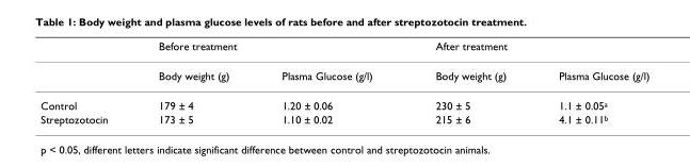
<table><thead><tr><td rowspan="2"></td><td colspan="2">Before treatment</td><td colspan="2">After treatment</td></tr><tr><td>Body weight (g)</td><td>Plasma Glucose (g/l)</td><td>Body weight (g)</td><td>Plasma Glucose (g/l)</td></tr></thead><tbody><tr><td>Control</td><td>179 ± 4</td><td>1.20 ± 0.06</td><td>230 ± 5</td><td>1.1 ± 0.05<sup>a</sup></td></tr><tr><td>Streptozotocin</td><td>173 ± 5</td><td>1.10 ± 0.02</td><td>215 ± 6</td><td>4.1 ± 0.11<sup>b</sup></td></tr></tbody></table>